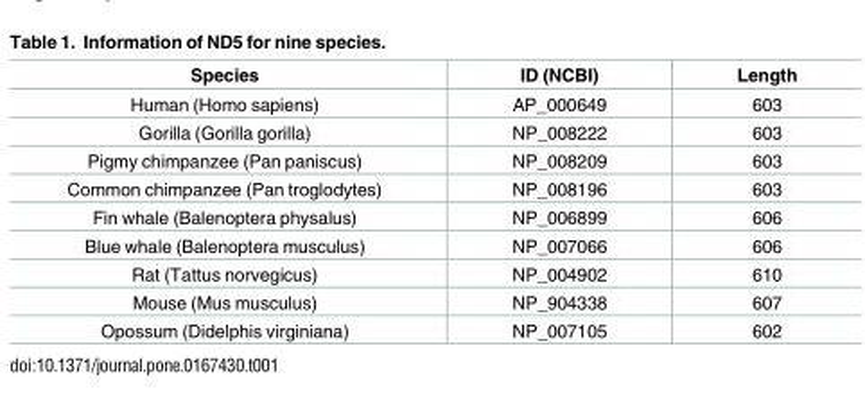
<table><thead><tr><td>Species</td><td>ID (NCBI)</td><td>Length</td></tr></thead><tbody><tr><td>Human (Homo sapiens)</td><td>AP_000649</td><td>603</td></tr><tr><td>Gorilla (Gorilla gorilla)</td><td>NP_008222</td><td>603</td></tr><tr><td>Pigmy chimpanzee (Pan paniscus)</td><td>NP_008209</td><td>603</td></tr><tr><td>Common chimpanzee (Pan troglodytes)</td><td>NP_008196</td><td>603</td></tr><tr><td>Fin whale (Balenoptera physalus)</td><td>NP_006899</td><td>606</td></tr><tr><td>Blue whale (Balenoptera musculus)</td><td>NP_007066</td><td>606</td></tr><tr><td>Rat (Tattus norvegicus)</td><td>NP_004902</td><td>610</td></tr><tr><td>Mouse (Mus musculus)</td><td>NP_904338</td><td>607</td></tr><tr><td>Opossum (Didelphis virginiana)</td><td>NP_007105</td><td>602</td></tr></tbody></table>